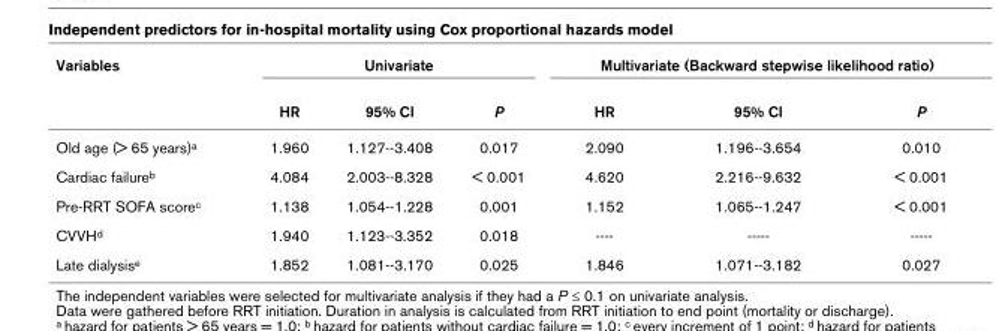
<table><thead><tr><td rowspan="2">Variables</td><td colspan="3">Univariate</td><td colspan="3">Multivariate (Backward stepwise likelihood ratio)</td></tr><tr><td>HR</td><td>95% CI</td><td>P</td><td>HR</td><td>95% CI</td><td>P</td></tr></thead><tbody><tr><td>Old age (&gt; 65 years)<sup>a</sup></td><td>1.960</td><td>1.127--3.408</td><td>0.017</td><td>2.090</td><td>1.196--3.654</td><td>0.010</td></tr><tr><td>Cardiac failure<sup>b</sup></td><td>4.084</td><td>2.003--8.328</td><td>&lt; 0.001</td><td>4.620</td><td>2.216--9.632</td><td>&lt; 0.001</td></tr><tr><td>Pre-RRT SOFA score<sup>c</sup></td><td>1.138</td><td>1.054--1.228</td><td>0.001</td><td>1.152</td><td>1.065--1.247</td><td>&lt; 0.001</td></tr><tr><td>CVVH<sup>d</sup></td><td>1.940</td><td>1.123--3.352</td><td>0.018</td><td>----</td><td>-----</td><td>-----</td></tr><tr><td>Late dialysis<sup>e</sup></td><td>1.852</td><td>1.081--3.170</td><td>0.025</td><td>1.846</td><td>1.071--3.182</td><td>0.027</td></tr></tbody></table>